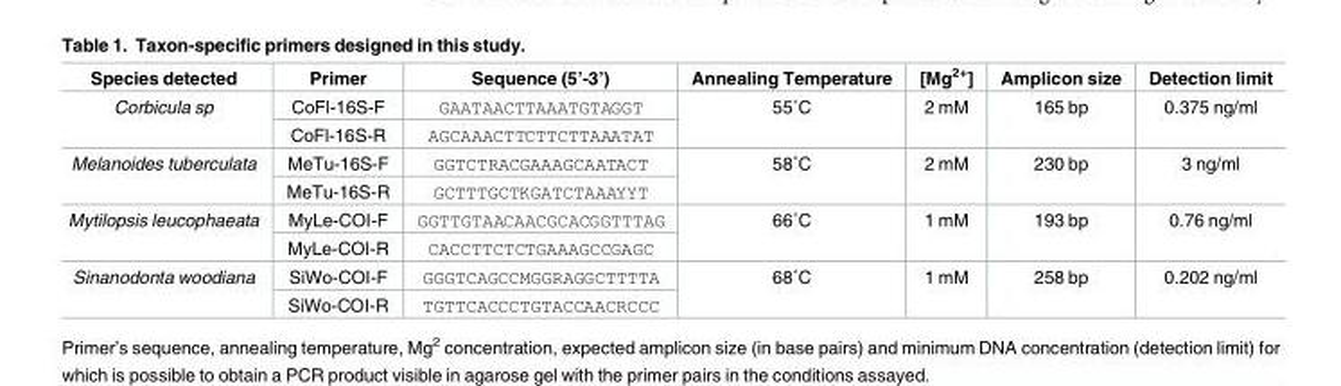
<table><thead><tr><td>Species detected</td><td>Primer</td><td>Sequence (5’-3’)</td><td>Annealing Temperature</td><td>[Mg<sup>2+</sup>]</td><td>Amplicon size</td><td>Detection limit</td></tr></thead><tbody><tr><td rowspan="2">Corbicula sp</td><td>CoFl-16S-F</td><td>GAATAACTTAAATGTAGGT</td><td rowspan="2">55˚C</td><td rowspan="2">2 mM</td><td rowspan="2">165 bp</td><td rowspan="2">0.375 ng/ml</td></tr><tr><td>CoFl-16S-R</td><td>AGCAAACTTCTTCTTAAATAT</td></tr><tr><td rowspan="2">Melanoides tuberculata</td><td>MeTu-16S-F</td><td>GGTCTRACGAAAGCAATACT</td><td rowspan="2">58˚C</td><td rowspan="2">2 mM</td><td rowspan="2">230 bp</td><td rowspan="2">3 ng/ml</td></tr><tr><td>MeTu-16S-R</td><td>GCTTTGCTKGATCTAAAYYT</td></tr><tr><td rowspan="2">Mytilopsis leucophaeata</td><td>MyLe-COI-F</td><td>GGTTGTAACAACGCACGGTTTAG</td><td rowspan="2">66˚C</td><td rowspan="2">1 mM</td><td rowspan="2">193 bp</td><td rowspan="2">0.76 ng/ml</td></tr><tr><td>MyLe-COI-R</td><td>CACCTTCTCTGAAAGCCGAGC</td></tr><tr><td rowspan="2">Sinanodonta woodiana</td><td>SiWo-COI-F</td><td>GGGTCAGCCMGGRAGGCTTTTA</td><td rowspan="2">68˚C</td><td rowspan="2">1 mM</td><td rowspan="2">258 bp</td><td rowspan="2">0.202 ng/ml</td></tr><tr><td>SiWo-COI-R</td><td>TGTTCACCCTGTACCAACRCCC</td></tr></tbody></table>